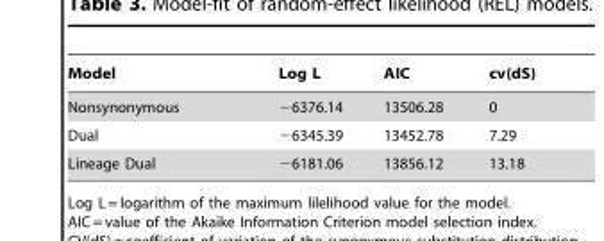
<table><thead><tr><td>Model</td><td>Log L</td><td>AIC</td><td>cv(dS)</td></tr></thead><tbody><tr><td>Nonsynonymous</td><td>−6376.14</td><td>13506.28</td><td>0</td></tr><tr><td>Dual</td><td>−6345.39</td><td>13452.78</td><td>7.29</td></tr><tr><td>Lineage Dual</td><td>−6181.06</td><td>13856.12</td><td>13.18</td></tr></tbody></table>